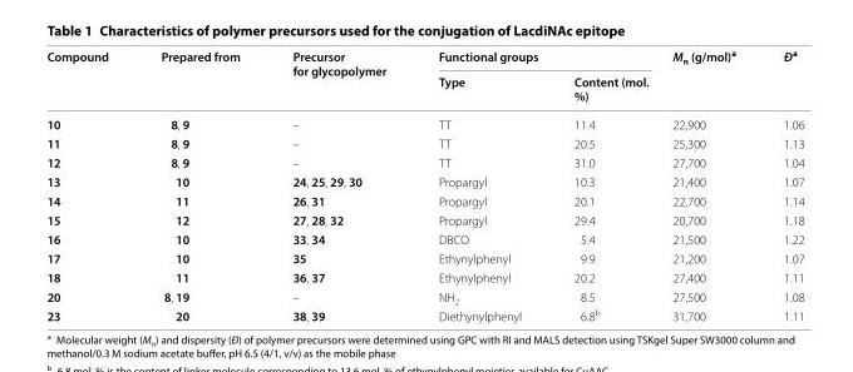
<table><thead><tr><td rowspan="2">Compound</td><td rowspan="2">Prepared from</td><td rowspan="2">Precursor for glycopolymer</td><td colspan="2">Functional groups</td><td rowspan="2">M<sub>n</sub> (g/mol)<sup>a</sup></td><td rowspan="2">Ð<sup>a</sup></td></tr><tr><td>Type</td><td>Content (mol. %)</td></tr></thead><tbody><tr><td>10</td><td>8, 9</td><td>–</td><td>TT</td><td>11.4</td><td>22,900</td><td>1.06</td></tr><tr><td>11</td><td>8, 9</td><td>–</td><td>TT</td><td>20.5</td><td>25,300</td><td>1.13</td></tr><tr><td>12</td><td>8, 9</td><td>–</td><td>TT</td><td>31.0</td><td>27,700</td><td>1.04</td></tr><tr><td>13</td><td>10</td><td>24, 25, 29, 30</td><td>Propargyl</td><td>10.3</td><td>21,400</td><td>1.07</td></tr><tr><td>14</td><td>11</td><td>26, 31</td><td>Propargyl</td><td>20.1</td><td>22,700</td><td>1.14</td></tr><tr><td>15</td><td>12</td><td>27, 28, 32</td><td>Propargyl</td><td>29.4</td><td>20,700</td><td>1.18</td></tr><tr><td>16</td><td>10</td><td>33, 34</td><td>DBCO</td><td>5.4</td><td>21,500</td><td>1.22</td></tr><tr><td>17</td><td>10</td><td>35</td><td>Ethynylphenyl</td><td>9.9</td><td>21,200</td><td>1.07</td></tr><tr><td>18</td><td>11</td><td>36, 37</td><td>Ethynylphenyl</td><td>20.2</td><td>27,400</td><td>1.11</td></tr><tr><td>20</td><td>8, 19</td><td>–</td><td>NH<sub>2</sub></td><td>8.5</td><td>27,500</td><td>1.08</td></tr><tr><td>23</td><td>20</td><td>38, 39</td><td>Diethynylphenyl</td><td>6.8<sup>b</sup></td><td>31,700</td><td>1.11</td></tr></tbody></table>